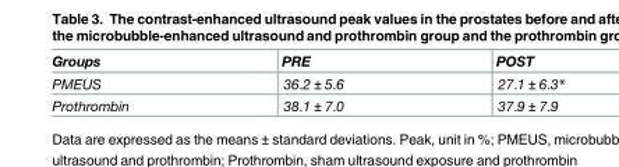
<table><thead><tr><td>Groups</td><td>PRE</td><td>POST</td></tr></thead><tbody><tr><td>PMEUS</td><td>36.2 ± 5.6</td><td>27.1 ± 6.3*</td></tr><tr><td>Prothrombin</td><td>38.1 ± 7.0</td><td>37.9 ± 7.9</td></tr></tbody></table>